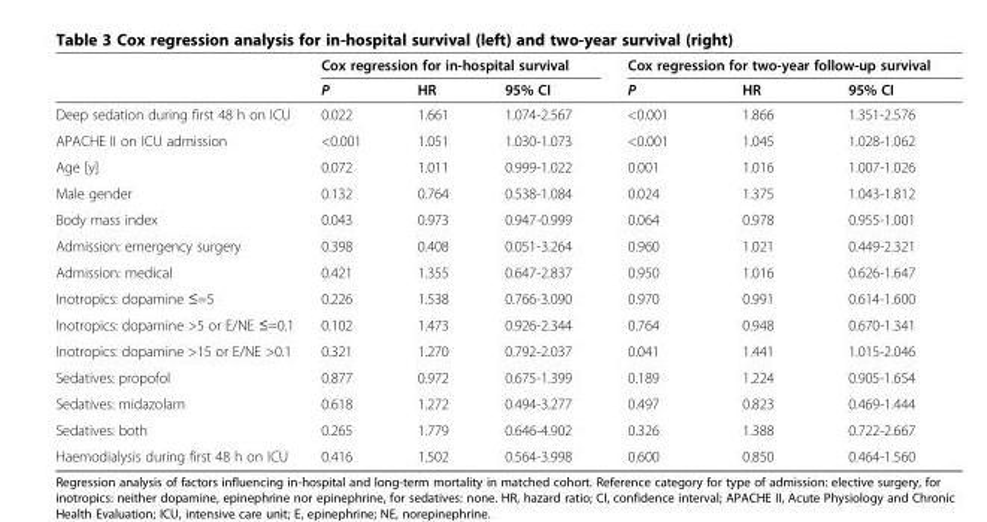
<table><thead><tr><td rowspan="2"></td><td colspan="3">Cox regression for in-hospital survival</td><td colspan="3">Cox regression for two-year follow-up survival</td></tr><tr><td>P</td><td>HR</td><td>95% CI</td><td>P</td><td>HR</td><td>95% CI</td></tr></thead><tbody><tr><td>Deep sedation during first 48 h on ICU</td><td>0.022</td><td>1.661</td><td>1.074-2.567</td><td>&lt;0.001</td><td>1.866</td><td>1.351-2.576</td></tr><tr><td>APACHE II on ICU admission</td><td>&lt;0.001</td><td>1.051</td><td>1.030-1.073</td><td>&lt;0.001</td><td>1.045</td><td>1.028-1.062</td></tr><tr><td>Age [y]</td><td>0.072</td><td>1.011</td><td>0.999-1.022</td><td>0.001</td><td>1.016</td><td>1.007-1.026</td></tr><tr><td>Male gender</td><td>0.132</td><td>0.764</td><td>0.538-1.084</td><td>0.024</td><td>1.375</td><td>1.043-1.812</td></tr><tr><td>Body mass index</td><td>0.043</td><td>0.973</td><td>0.947-0.999</td><td>0.064</td><td>0.978</td><td>0.955-1.001</td></tr><tr><td>Admission: emergency surgery</td><td>0.398</td><td>0.408</td><td>0.051-3.264</td><td>0.960</td><td>1.021</td><td>0.449-2.321</td></tr><tr><td>Admission: medical</td><td>0.421</td><td>1.355</td><td>0.647-2.837</td><td>0.950</td><td>1.016</td><td>0.626-1.647</td></tr><tr><td>Inotropics: dopamine ≤=5</td><td>0.226</td><td>1.538</td><td>0.766-3.090</td><td>0.970</td><td>0.991</td><td>0.614-1.600</td></tr><tr><td>Inotropics: dopamine &gt;5 or E/NE ≤=0.1</td><td>0.102</td><td>1.473</td><td>0.926-2.344</td><td>0.764</td><td>0.948</td><td>0.670-1.341</td></tr><tr><td>Inotropics: dopamine &gt;15 or E/NE &gt;0.1</td><td>0.321</td><td>1.270</td><td>0.792-2.037</td><td>0.041</td><td>1.441</td><td>1.015-2.046</td></tr><tr><td>Sedatives: propofol</td><td>0.877</td><td>0.972</td><td>0.675-1.399</td><td>0.189</td><td>1.224</td><td>0.905-1.654</td></tr><tr><td>Sedatives: midazolam</td><td>0.618</td><td>1.272</td><td>0.494-3.277</td><td>0.497</td><td>0.823</td><td>0.469-1.444</td></tr><tr><td>Sedatives: both</td><td>0.265</td><td>1.779</td><td>0.646-4.902</td><td>0.326</td><td>1.388</td><td>0.722-2.667</td></tr><tr><td>Haemodialysis during first 48 h on ICU</td><td>0.416</td><td>1.502</td><td>0.564-3.998</td><td>0.600</td><td>0.850</td><td>0.464-1.560</td></tr></tbody></table>